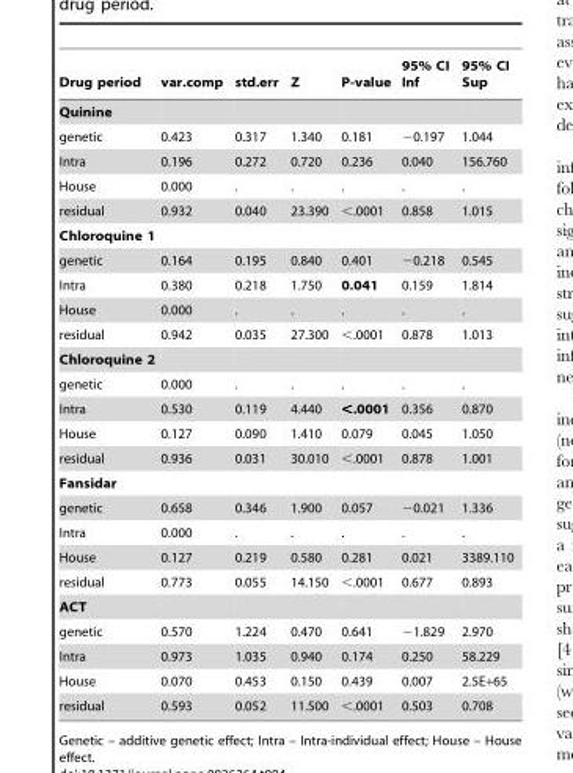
<table><thead><tr><td>Drug period</td><td>var.comp</td><td>std.err</td><td>Z</td><td>P-value</td><td>95% CI Inf</td><td>95% CI Sup</td></tr></thead><tbody><tr><td colspan="7">Quinine</td></tr><tr><td>genetic</td><td>0.423</td><td>0.317</td><td>1.340</td><td>0.181</td><td>−0.197</td><td>1.044</td></tr><tr><td>Intra</td><td>0.196</td><td>0.272</td><td>0.720</td><td>0.236</td><td>0.040</td><td>156.760</td></tr><tr><td>House</td><td>0.000</td><td>.</td><td>.</td><td>.</td><td>.</td><td>.</td></tr><tr><td>residual</td><td>0.932</td><td>0.040</td><td>23.390</td><td>&lt;.0001</td><td>0.858</td><td>1.015</td></tr><tr><td colspan="7">Chloroquine 1</td></tr><tr><td>genetic</td><td>0.164</td><td>0.195</td><td>0.840</td><td>0.401</td><td>−0.218</td><td>0.545</td></tr><tr><td>Intra</td><td>0.380</td><td>0.218</td><td>1.750</td><td>0.041</td><td>0.159</td><td>1.814</td></tr><tr><td>House</td><td>0.000</td><td>.</td><td>.</td><td>.</td><td>.</td><td>.</td></tr><tr><td>residual</td><td>0.942</td><td>0.035</td><td>27.300</td><td>&lt;.0001</td><td>0.878</td><td>1.013</td></tr><tr><td colspan="7">Chloroquine 2</td></tr><tr><td>genetic</td><td>0.000</td><td>.</td><td>.</td><td>.</td><td>.</td><td>.</td></tr><tr><td>Intra</td><td>0.530</td><td>0.119</td><td>4.440</td><td>&lt;.0001</td><td>0.356</td><td>0.870</td></tr><tr><td>House</td><td>0.127</td><td>0.090</td><td>1.410</td><td>0.079</td><td>0.045</td><td>1.050</td></tr><tr><td>residual</td><td>0.936</td><td>0.031</td><td>30.010</td><td>&lt;.0001</td><td>0.878</td><td>1.001</td></tr><tr><td colspan="7">Fansidar</td></tr><tr><td>genetic</td><td>0.658</td><td>0.346</td><td>1.900</td><td>0.057</td><td>−0.021</td><td>1.336</td></tr><tr><td>Intra</td><td>0.000</td><td>.</td><td>.</td><td>.</td><td>.</td><td>.</td></tr><tr><td>House</td><td>0.127</td><td>0.219</td><td>0.580</td><td>0.281</td><td>0.021</td><td>3389.110</td></tr><tr><td>residual</td><td>0.773</td><td>0.055</td><td>14.150</td><td>&lt;.0001</td><td>0.677</td><td>0.893</td></tr><tr><td colspan="7">ACT</td></tr><tr><td>genetic</td><td>0.570</td><td>1.224</td><td>0.470</td><td>0.641</td><td>−1.829</td><td>2.970</td></tr><tr><td>Intra</td><td>0.973</td><td>1.035</td><td>0.940</td><td>0.174</td><td>0.250</td><td>58.229</td></tr><tr><td>House</td><td>0.070</td><td>0.453</td><td>0.150</td><td>0.439</td><td>0.007</td><td>2.5E+65</td></tr><tr><td>residual</td><td>0.593</td><td>0.052</td><td>11.500</td><td>&lt;.0001</td><td>0.503</td><td>0.708</td></tr></tbody></table>